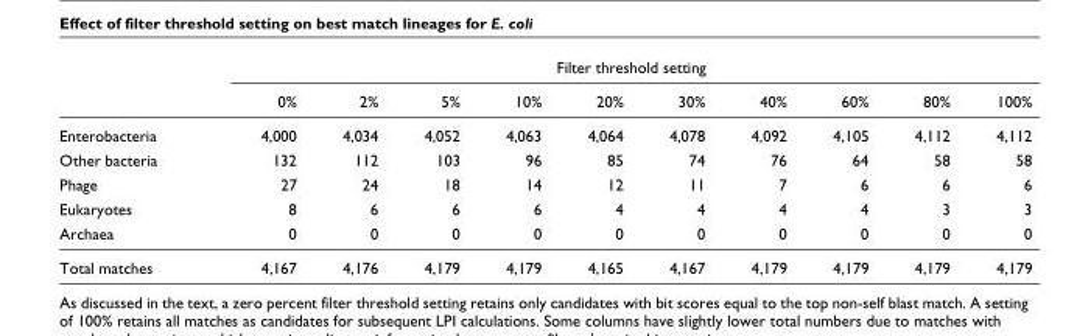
<table><thead><tr><td rowspan="2"></td><td colspan="10">Filter threshold setting</td></tr><tr><td>0%</td><td>2%</td><td>5%</td><td>10%</td><td>20%</td><td>30%</td><td>40%</td><td>60%</td><td>80%</td><td>100%</td></tr></thead><tbody><tr><td>Enterobacteria</td><td>4,000</td><td>4,034</td><td>4,052</td><td>4,063</td><td>4,064</td><td>4,078</td><td>4,092</td><td>4,105</td><td>4,112</td><td>4,112</td></tr><tr><td>Other bacteria</td><td>132</td><td>112</td><td>103</td><td>96</td><td>85</td><td>74</td><td>76</td><td>64</td><td>58</td><td>58</td></tr><tr><td>Phage</td><td>27</td><td>24</td><td>18</td><td>14</td><td>12</td><td>11</td><td>7</td><td>6</td><td>6</td><td>6</td></tr><tr><td>Eukaryotes</td><td>8</td><td>6</td><td>6</td><td>6</td><td>4</td><td>4</td><td>4</td><td>4</td><td>3</td><td>3</td></tr><tr><td>Archaea</td><td>0</td><td>0</td><td>0</td><td>0</td><td>0</td><td>0</td><td>0</td><td>0</td><td>0</td><td>0</td></tr><tr><td>Total matches</td><td>4,167</td><td>4,176</td><td>4,179</td><td>4,179</td><td>4,165</td><td>4,167</td><td>4,179</td><td>4,179</td><td>4,179</td><td>4,179</td></tr></tbody></table>